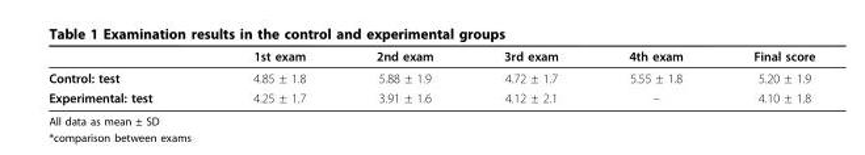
<table><thead><tr><td></td><td>1st exam</td><td>2nd exam</td><td>3rd exam</td><td>4th exam</td><td>Final score</td></tr></thead><tbody><tr><td>Control: test</td><td>4.85 ± 1.8</td><td>5.88 ± 1.9</td><td>4.72 ± 1.7</td><td>5.55 ± 1.8</td><td>5.20 ± 1.9</td></tr><tr><td>Experimental: test</td><td>4.25 ± 1.7</td><td>3.91 ± 1.6</td><td>4.12 ± 2.1</td><td>–</td><td>4.10 ± 1.8</td></tr></tbody></table>